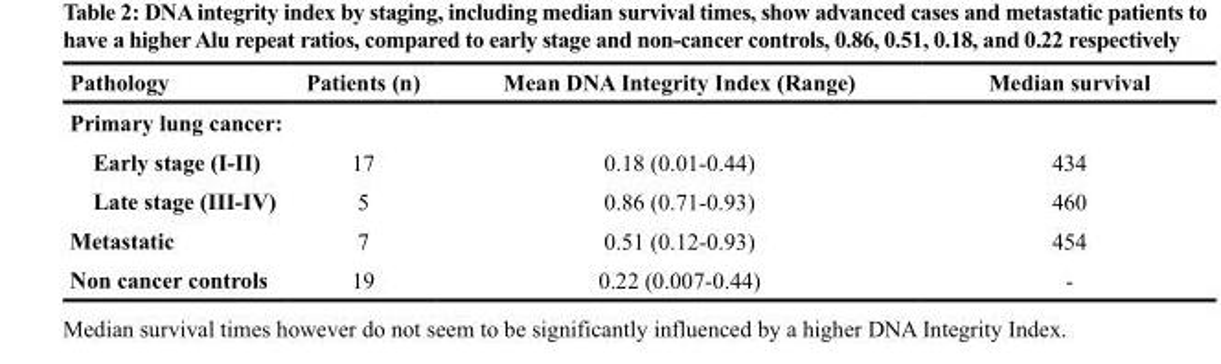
<table><thead><tr><td>Pathology</td><td>Patients (n)</td><td>Mean DNA Integrity Index (Range)</td><td>Median survival</td></tr></thead><tbody><tr><td colspan="4">Primary lung cancer:</td></tr><tr><td>Early stage (I-II)</td><td>17</td><td>0.18 (0.01-0.44)</td><td>434</td></tr><tr><td>Late stage (III-IV)</td><td>5</td><td>0.86 (0.71-0.93)</td><td>460</td></tr><tr><td>Metastatic</td><td>7</td><td>0.51 (0.12-0.93)</td><td>454</td></tr><tr><td>Non cancer controls</td><td>19</td><td>0.22 (0.007-0.44)</td><td>-</td></tr></tbody></table>